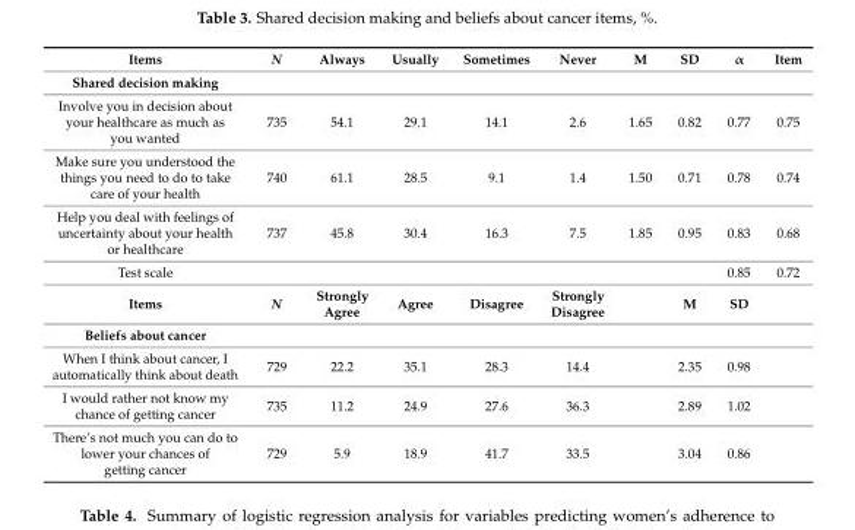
<table><tbody><tr><td>Items</td><td>N</td><td>Always</td><td>Usually</td><td>Sometimes</td><td>Never</td><td>M</td><td>SD</td><td>α</td><td>Item</td></tr><tr><td colspan="10">Shared decision making</td></tr><tr><td>Involve you in decision about your healthcare as much as you wanted</td><td>735</td><td>54.1</td><td>29.1</td><td>14.1</td><td>2.6</td><td>1.65</td><td>0.82</td><td>0.77</td><td>0.75</td></tr><tr><td>Make sure you understood the things you need to do to take care of your health</td><td>740</td><td>61.1</td><td>28.5</td><td>9.1</td><td>1.4</td><td>1.50</td><td>0.71</td><td>0.78</td><td>0.74</td></tr><tr><td>Help you deal with feelings of uncertainty about your health or healthcare</td><td>737</td><td>45.8</td><td>30.4</td><td>16.3</td><td>7.5</td><td>1.85</td><td>0.95</td><td>0.83</td><td>0.68</td></tr><tr><td>Test scale</td><td></td><td></td><td></td><td></td><td></td><td></td><td></td><td>0.85</td><td>0.72</td></tr><tr><td>Items</td><td>N</td><td>Strongly Agree</td><td>Agree</td><td>Disagree</td><td>Strongly Disagree</td><td></td><td>M</td><td>SD</td><td></td></tr><tr><td colspan="10">Beliefs about cancer</td></tr><tr><td>When I think about cancer, I automatically think about death</td><td>729</td><td>22.2</td><td>35.1</td><td>28.3</td><td>14.4</td><td></td><td>2.35</td><td>0.98</td><td></td></tr><tr><td>I would rather not know my chance of getting cancer</td><td>735</td><td>11.2</td><td>24.9</td><td>27.6</td><td>36.3</td><td></td><td>2.89</td><td>1.02</td><td></td></tr><tr><td>There’s not much you can do to lower your chances of getting cancer</td><td>729</td><td>5.9</td><td>18.9</td><td>41.7</td><td>33.5</td><td></td><td>3.04</td><td>0.86</td><td></td></tr></tbody></table>